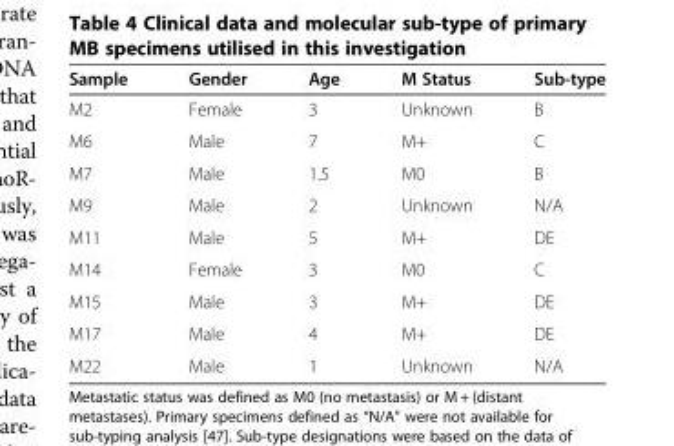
<table><thead><tr><td>Sample</td><td>Gender</td><td>Age</td><td>M Status</td><td>Sub-type</td></tr></thead><tbody><tr><td>M2</td><td>Female</td><td>3</td><td>Unknown</td><td>B</td></tr><tr><td>M6</td><td>Male</td><td>7</td><td>M+</td><td>C</td></tr><tr><td>M7</td><td>Male</td><td>1.5</td><td>M0</td><td>B</td></tr><tr><td>M9</td><td>Male</td><td>2</td><td>Unknown</td><td>N/A</td></tr><tr><td>M11</td><td>Male</td><td>5</td><td>M+</td><td>DE</td></tr><tr><td>M14</td><td>Female</td><td>3</td><td>M0</td><td>C</td></tr><tr><td>M15</td><td>Male</td><td>3</td><td>M+</td><td>DE</td></tr><tr><td>M17</td><td>Male</td><td>4</td><td>M+</td><td>DE</td></tr><tr><td>M22</td><td>Male</td><td>1</td><td>Unknown</td><td>N/A</td></tr></tbody></table>